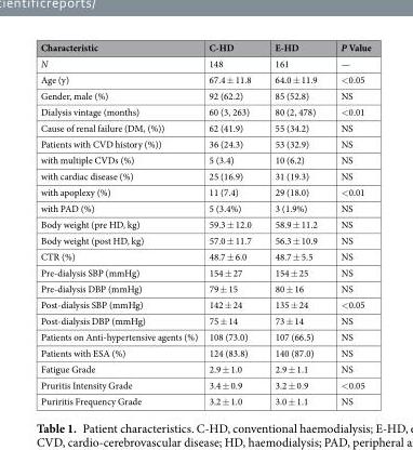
<table><thead><tr><td>Characteristic</td><td>C-HD</td><td>E-HD</td><td>P Value</td></tr></thead><tbody><tr><td>N</td><td>148</td><td>161</td><td>—</td></tr><tr><td>Age (y)</td><td>67.4 ± 11.8</td><td>64.0 ± 11.9</td><td>&lt;0.05</td></tr><tr><td>Gender, male (%)</td><td>92 (62.2)</td><td>85 (52.8)</td><td>NS</td></tr><tr><td>Dialysis vintage (months)</td><td>60 (3, 263)</td><td>80 (2, 478)</td><td>&lt;0.01</td></tr><tr><td>Cause of renal failure (DM, (%))</td><td>62 (41.9)</td><td>55 (34.2)</td><td>NS</td></tr><tr><td>Patients with CVD history (%))</td><td>36 (24.3)</td><td>53 (32.9)</td><td>NS</td></tr><tr><td>with multiple CVDs (%)</td><td>5 (3.4)</td><td>10 (6.2)</td><td>NS</td></tr><tr><td>with cardiac disease (%)</td><td>25 (16.9)</td><td>31 (19.3)</td><td>NS</td></tr><tr><td>with apoplexy (%)</td><td>11 (7.4)</td><td>29 (18.0)</td><td>&lt;0.01</td></tr><tr><td>with PAD (%)</td><td>5 (3.4%)</td><td>3 (1.9%)</td><td>NS</td></tr><tr><td>Body weight (pre HD, kg)</td><td>59.3 ± 12.0</td><td>58.9 ± 11.2</td><td>NS</td></tr><tr><td>Body weight (post HD, kg)</td><td>57.0 ± 11.7</td><td>56.3 ± 10.9</td><td>NS</td></tr><tr><td>CTR (%)</td><td>48.7 ± 6.0</td><td>48.7 ± 5.5</td><td>NS</td></tr><tr><td>Pre-dialysis SBP (mmHg)</td><td>154 ± 27</td><td>154 ± 25</td><td>NS</td></tr><tr><td>Pre-dialysis DBP (mmHg)</td><td>79 ± 15</td><td>80 ± 16</td><td>NS</td></tr><tr><td>Post-dialysis SBP (mmHg)</td><td>142 ± 24</td><td>135 ± 24</td><td>&lt;0.05</td></tr><tr><td>Post-dialysis DBP (mmHg)</td><td>75 ± 14</td><td>73 ± 14</td><td>NS</td></tr><tr><td>Patients on Anti-hypertensive agents (%)</td><td>108 (73.0)</td><td>107 (66.5)</td><td>NS</td></tr><tr><td>Patients with ESA (%)</td><td>124 (83.8)</td><td>140 (87.0)</td><td>NS</td></tr><tr><td>Fatigue Grade</td><td>2.9 ± 1.0</td><td>2.9 ± 1.1</td><td>NS</td></tr><tr><td>Pruritis Intensity Grade</td><td>3.4 ± 0.9</td><td>3.2 ± 0.9</td><td>&lt;0.05</td></tr><tr><td>Puriritis Frequency Grade</td><td>3.2 ± 1.0</td><td>3.0 ± 1.1</td><td>NS</td></tr></tbody></table>